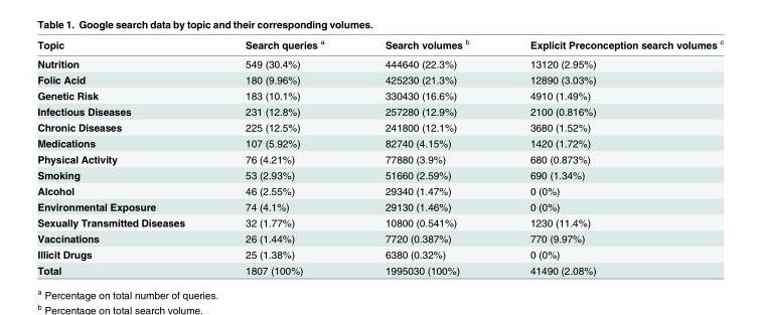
<table><thead><tr><td>Topic</td><td>Search queries <sup>a</sup></td><td>Search volumes <sup>b</sup></td><td>Explicit Preconception search volumes <sup>c</sup></td></tr></thead><tbody><tr><td>Nutrition</td><td>549 (30.4%)</td><td>444640 (22.3%)</td><td>13120 (2.95%)</td></tr><tr><td>Folic Acid</td><td>180 (9.96%)</td><td>425230 (21.3%)</td><td>12890 (3.03%)</td></tr><tr><td>Genetic Risk</td><td>183 (10.1%)</td><td>330430 (16.6%)</td><td>4910 (1.49%)</td></tr><tr><td>Infectious Diseases</td><td>231 (12.8%)</td><td>257280 (12.9%)</td><td>2100 (0.816%)</td></tr><tr><td>Chronic Diseases</td><td>225 (12.5%)</td><td>241800 (12.1%)</td><td>3680 (1.52%)</td></tr><tr><td>Medications</td><td>107 (5.92%)</td><td>82740 (4.15%)</td><td>1420 (1.72%)</td></tr><tr><td>Physical Activity</td><td>76 (4.21%)</td><td>77880 (3.9%)</td><td>680 (0.873%)</td></tr><tr><td>Smoking</td><td>53 (2.93%)</td><td>51660 (2.59%)</td><td>690 (1.34%)</td></tr><tr><td>Alcohol</td><td>46 (2.55%)</td><td>29340 (1.47%)</td><td>0 (0%)</td></tr><tr><td>Environmental Exposure</td><td>74 (4.1%)</td><td>29130 (1.46%)</td><td>0 (0%)</td></tr><tr><td>Sexually Transmitted Diseases</td><td>32 (1.77%)</td><td>10800 (0.541%)</td><td>1230 (11.4%)</td></tr><tr><td>Vaccinations</td><td>26 (1.44%)</td><td>7720 (0.387%)</td><td>770 (9.97%)</td></tr><tr><td>Illicit Drugs</td><td>25 (1.38%)</td><td>6380 (0.32%)</td><td>0 (0%)</td></tr><tr><td>Total</td><td>1807 (100%)</td><td>1995030 (100%)</td><td>41490 (2.08%)</td></tr></tbody></table>